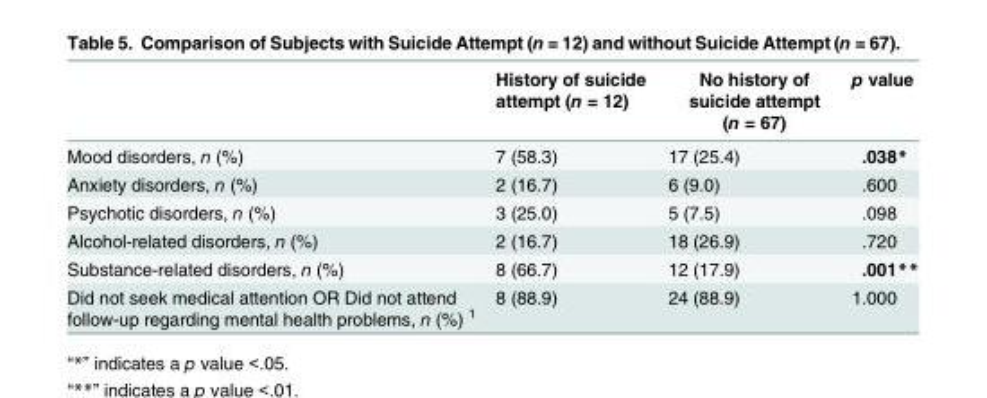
<table><thead><tr><td></td><td>History of suicide attempt (n = 12)</td><td>No history of suicide attempt (n = 67)</td><td>p value</td></tr></thead><tbody><tr><td>Mood disorders, n (%)</td><td>7 (58.3)</td><td>17 (25.4)</td><td>.038*</td></tr><tr><td>Anxiety disorders, n (%)</td><td>2 (16.7)</td><td>6 (9.0)</td><td>.600</td></tr><tr><td>Psychotic disorders, n (%)</td><td>3 (25.0)</td><td>5 (7.5)</td><td>.098</td></tr><tr><td>Alcohol-related disorders, n (%)</td><td>2 (16.7)</td><td>18 (26.9)</td><td>.720</td></tr><tr><td>Substance-related disorders, n (%)</td><td>8 (66.7)</td><td>12 (17.9)</td><td>.001**</td></tr><tr><td>Did not seek medical attention OR Did not attend follow-up regarding mental health problems, n (%) <sup>1</sup></td><td>8 (88.9)</td><td>24 (88.9)</td><td>1.000</td></tr></tbody></table>